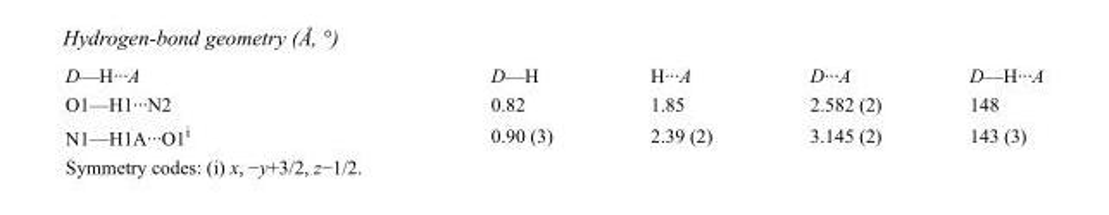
<table><tbody><tr><td>D—H···A</td><td>D—H</td><td>H···A</td><td>D···A</td><td>D—H···A</td></tr><tr><td>O1—H1···N2</td><td>0.82</td><td>1.85</td><td>2.582 (2)</td><td>148</td></tr><tr><td>N1—H1A···O1<sup>i</sup></td><td>0.90 (3)</td><td>2.39 (2)</td><td>3.145 (2)</td><td>143 (3)</td></tr></tbody></table>